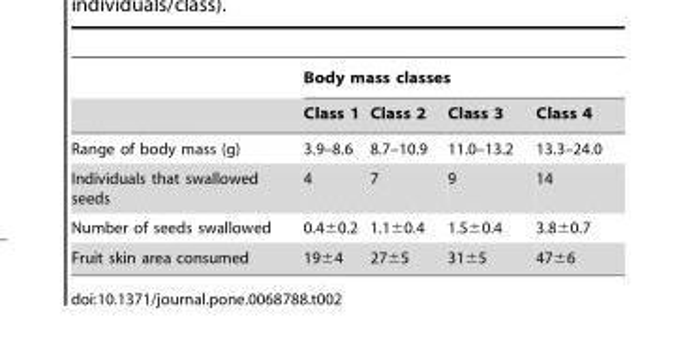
<table><thead><tr><td rowspan="2"></td><td colspan="4">Body mass classes</td></tr><tr><td>Class 1</td><td>Class 2</td><td>Class 3</td><td>Class 4</td></tr></thead><tbody><tr><td>Range of body mass (g)</td><td>3.9–8.6</td><td>8.7–10.9</td><td>11.0–13.2</td><td>13.3–24.0</td></tr><tr><td>Individuals that swallowed seeds</td><td>4</td><td>7</td><td>9</td><td>14</td></tr><tr><td>Number of seeds swallowed</td><td>0.4±0.2</td><td>1.1±0.4</td><td>1.5±0.4</td><td>3.8±0.7</td></tr><tr><td>Fruit skin area consumed</td><td>19±4</td><td>27±5</td><td>31±5</td><td>47±6</td></tr></tbody></table>